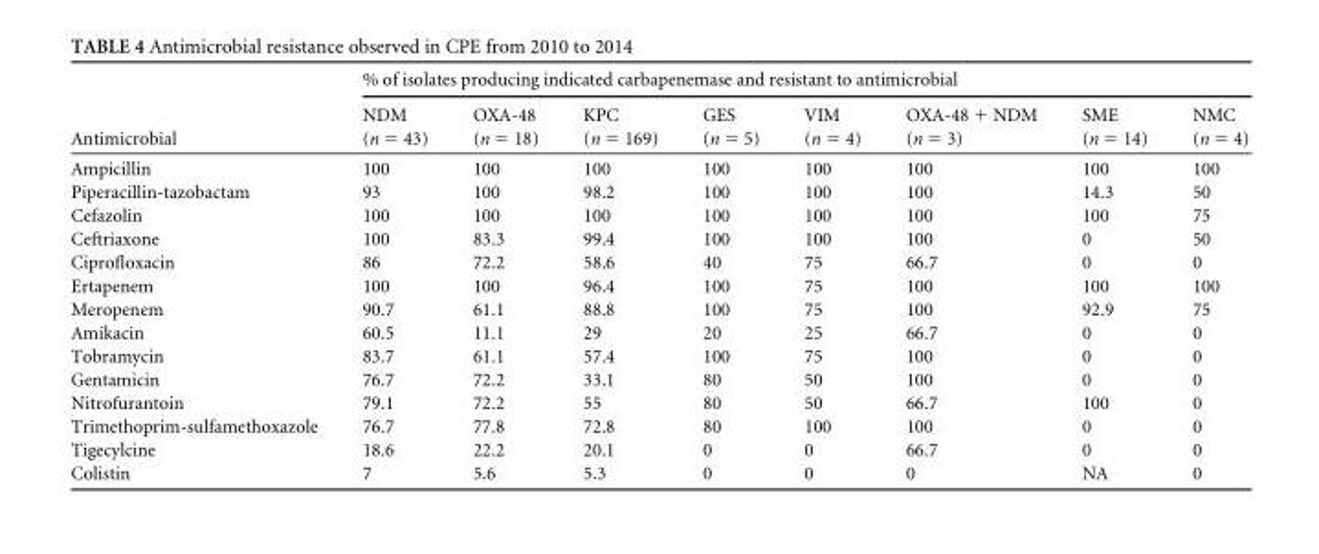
<table><thead><tr><td rowspan="2">Antimicrobial</td><td colspan="8">% of isolates producing indicated carbapenemase and resistant to antimicrobial</td></tr><tr><td>NDM (n = 43)</td><td>OXA-48 (n = 18)</td><td>KPC (n = 169)</td><td>GES (n = 5)</td><td>VIM (n = 4)</td><td>OXA-48 + NDM (n = 3)</td><td>SME (n = 14)</td><td>NMC (n = 4)</td></tr></thead><tbody><tr><td>Ampicillin</td><td>100</td><td>100</td><td>100</td><td>100</td><td>100</td><td>100</td><td>100</td><td>100</td></tr><tr><td>Piperacillin-tazobactam</td><td>93</td><td>100</td><td>98.2</td><td>100</td><td>100</td><td>100</td><td>14.3</td><td>50</td></tr><tr><td>Cefazolin</td><td>100</td><td>100</td><td>100</td><td>100</td><td>100</td><td>100</td><td>100</td><td>75</td></tr><tr><td>Ceftriaxone</td><td>100</td><td>83.3</td><td>99.4</td><td>100</td><td>100</td><td>100</td><td>0</td><td>50</td></tr><tr><td>Ciprofloxacin</td><td>86</td><td>72.2</td><td>58.6</td><td>40</td><td>75</td><td>66.7</td><td>0</td><td>0</td></tr><tr><td>Ertapenem</td><td>100</td><td>100</td><td>96.4</td><td>100</td><td>75</td><td>100</td><td>100</td><td>100</td></tr><tr><td>Meropenem</td><td>90.7</td><td>61.1</td><td>88.8</td><td>100</td><td>75</td><td>100</td><td>92.9</td><td>75</td></tr><tr><td>Amikacin</td><td>60.5</td><td>11.1</td><td>29</td><td>20</td><td>25</td><td>66.7</td><td>0</td><td>0</td></tr><tr><td>Tobramycin</td><td>83.7</td><td>61.1</td><td>57.4</td><td>100</td><td>75</td><td>100</td><td>0</td><td>0</td></tr><tr><td>Gentamicin</td><td>76.7</td><td>72.2</td><td>33.1</td><td>80</td><td>50</td><td>100</td><td>0</td><td>0</td></tr><tr><td>Nitrofurantoin</td><td>79.1</td><td>72.2</td><td>55</td><td>80</td><td>50</td><td>66.7</td><td>100</td><td>0</td></tr><tr><td>Trimethoprim-sulfamethoxazole</td><td>76.7</td><td>77.8</td><td>72.8</td><td>80</td><td>100</td><td>100</td><td>0</td><td>0</td></tr><tr><td>Tigecylcine</td><td>18.6</td><td>22.2</td><td>20.1</td><td>0</td><td>0</td><td>66.7</td><td>0</td><td>0</td></tr><tr><td>Colistin</td><td>7</td><td>5.6</td><td>5.3</td><td>0</td><td>0</td><td>0</td><td>NA</td><td>0</td></tr></tbody></table>